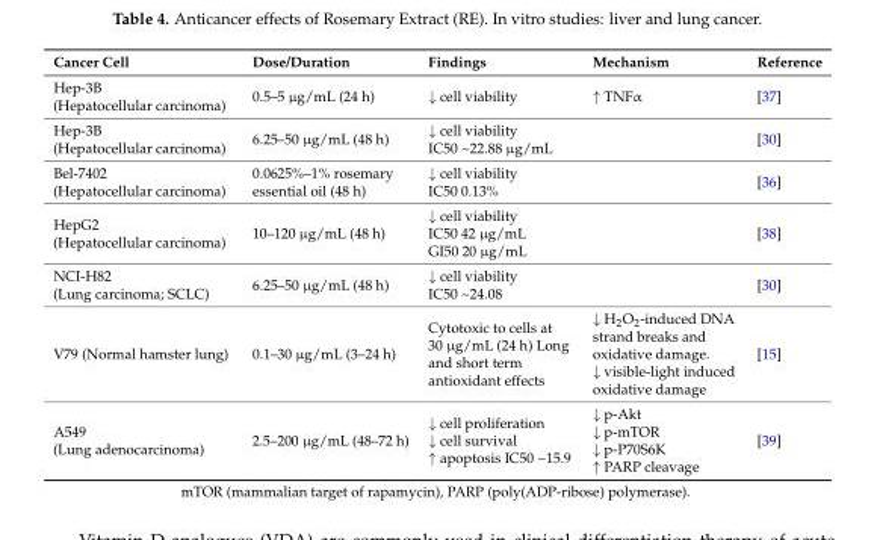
<table><thead><tr><td>Cancer Cell</td><td>Dose/Duration</td><td>Findings</td><td>Mechanism</td><td>Reference</td></tr></thead><tbody><tr><td>Hep-3B (Hepatocellular carcinoma)</td><td>0.5–5 µg/mL (24 h)</td><td>↓ cell viability</td><td>↑ TNFα</td><td>[37]</td></tr><tr><td>Hep-3B (Hepatocellular carcinoma)</td><td>6.25–50 µg/mL (48 h)</td><td>↓ cell viability IC50 ~22.88 µg/mL</td><td></td><td>[30]</td></tr><tr><td>Bel-7402 (Hepatocellular carcinoma)</td><td>0.0625%–1% rosemary essential oil (48 h)</td><td>↓ cell viability IC50 0.13%</td><td></td><td>[36]</td></tr><tr><td>HepG2 (Hepatocellular carcinoma)</td><td>10–120 µg/mL (48 h)</td><td>↓ cell viability IC50 42 µg/mL GI50 20 µg/mL</td><td></td><td>[38]</td></tr><tr><td>NCI-H82 (Lung carcinoma; SCLC)</td><td>6.25–50 µg/mL (48 h)</td><td>↓ cell viability IC50 ~24.08</td><td></td><td>[30]</td></tr><tr><td>V79 (Normal hamster lung)</td><td>0.1–30 µg/mL (3–24 h)</td><td>Cytotoxic to cells at 30 µg/mL (24 h) Long and short term antioxidant effects</td><td>↓ H<sub>2</sub>O<sub>2</sub>-induced DNA strand breaks and oxidative damage. ↓ visible-light induced oxidative damage</td><td>[15]</td></tr><tr><td>A549 (Lung adenocarcinoma)</td><td>2.5–200 µg/mL (48–72 h)</td><td>↓ cell proliferation ↓ cell survival ↑ apoptosis IC50 ~15.9</td><td>↓ p-Akt ↓ p-mTOR ↓ p-P70S6K ↑ PARP cleavage</td><td>[39]</td></tr></tbody></table>